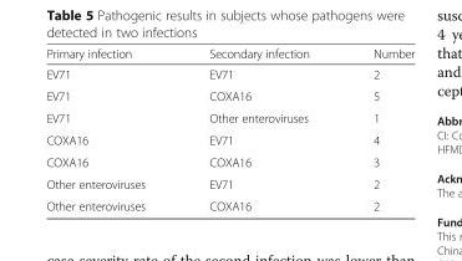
<table><thead><tr><td>Primary infection</td><td>Secondary infection</td><td>Number</td></tr></thead><tbody><tr><td>EV71</td><td>EV71</td><td>2</td></tr><tr><td>EV71</td><td>COXA16</td><td>5</td></tr><tr><td>EV71</td><td>Other enteroviruses</td><td>1</td></tr><tr><td>COXA16</td><td>EV71</td><td>4</td></tr><tr><td>COXA16</td><td>COXA16</td><td>3</td></tr><tr><td>Other enteroviruses</td><td>EV71</td><td>2</td></tr><tr><td>Other enteroviruses</td><td>COXA16</td><td>2</td></tr></tbody></table>